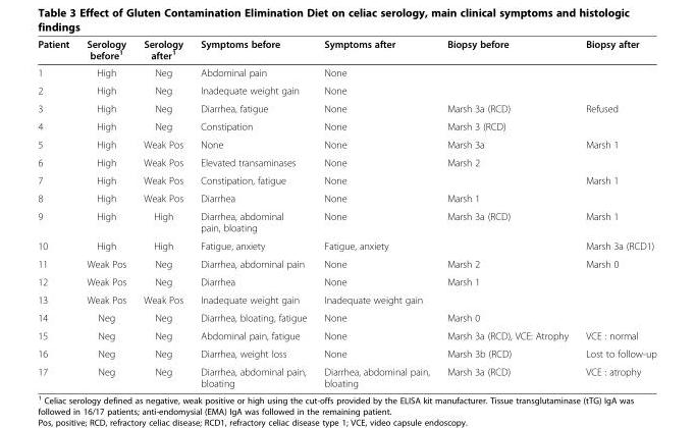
<table><thead><tr><td>Patient</td><td>Serology before<sup>1</sup></td><td>Serology after<sup>1</sup></td><td>Symptoms before</td><td>Symptoms after</td><td>Biopsy before</td><td>Biopsy after</td></tr></thead><tbody><tr><td>1</td><td>High</td><td>Neg</td><td>Abdominal pain</td><td>None</td><td></td><td></td></tr><tr><td>2</td><td>High</td><td>Neg</td><td>Inadequate weight gain</td><td>None</td><td></td><td></td></tr><tr><td>3</td><td>High</td><td>Neg</td><td>Diarrhea, fatigue</td><td>None</td><td>Marsh 3a (RCD)</td><td>Refused</td></tr><tr><td>4</td><td>High</td><td>Neg</td><td>Constipation</td><td>None</td><td>Marsh 3 (RCD)</td><td></td></tr><tr><td>5</td><td>High</td><td>Weak Pos</td><td>None</td><td>None</td><td>Marsh 3a</td><td>Marsh 1</td></tr><tr><td>6</td><td>High</td><td>Weak Pos</td><td>Elevated transaminases</td><td>None</td><td>Marsh 2</td><td></td></tr><tr><td>7</td><td>High</td><td>Weak Pos</td><td>Constipation, fatigue</td><td>None</td><td></td><td>Marsh 1</td></tr><tr><td>8</td><td>High</td><td>Weak Pos</td><td>Diarrhea</td><td>None</td><td>Marsh 1</td><td></td></tr><tr><td>9</td><td>High</td><td>High</td><td>Diarrhea, abdominal pain, bloating</td><td>None</td><td>Marsh 3a (RCD)</td><td>Marsh 1</td></tr><tr><td>10</td><td>High</td><td>High</td><td>Fatigue, anxiety</td><td>Fatigue, anxiety</td><td></td><td>Marsh 3a (RCD1)</td></tr><tr><td>11</td><td>Weak Pos</td><td>Neg</td><td>Diarrhea, abdominal pain</td><td>None</td><td>Marsh 2</td><td>Marsh 0</td></tr><tr><td>12</td><td>Weak Pos</td><td>Neg</td><td>Diarrhea</td><td>None</td><td>Marsh 1</td><td></td></tr><tr><td>13</td><td>Weak Pos</td><td>Weak Pos</td><td>Inadequate weight gain</td><td>Inadequate weight gain</td><td></td><td></td></tr><tr><td>14</td><td>Neg</td><td>Neg</td><td>Diarrhea, bloating, fatigue</td><td>None</td><td>Marsh 0</td><td></td></tr><tr><td>15</td><td>Neg</td><td>Neg</td><td>Abdominal pain, fatigue</td><td>None</td><td>Marsh 3a (RCD), VCE: Atrophy</td><td>VCE : normal</td></tr><tr><td>16</td><td>Neg</td><td>Neg</td><td>Diarrhea, weight loss</td><td>None</td><td>Marsh 3b (RCD)</td><td>Lost to follow-up</td></tr><tr><td>17</td><td>Neg</td><td>Neg</td><td>Diarrhea, abdominal pain, bloating</td><td>Diarrhea, abdominal pain, bloating</td><td>Marsh 3a (RCD)</td><td>VCE : atrophy</td></tr></tbody></table>